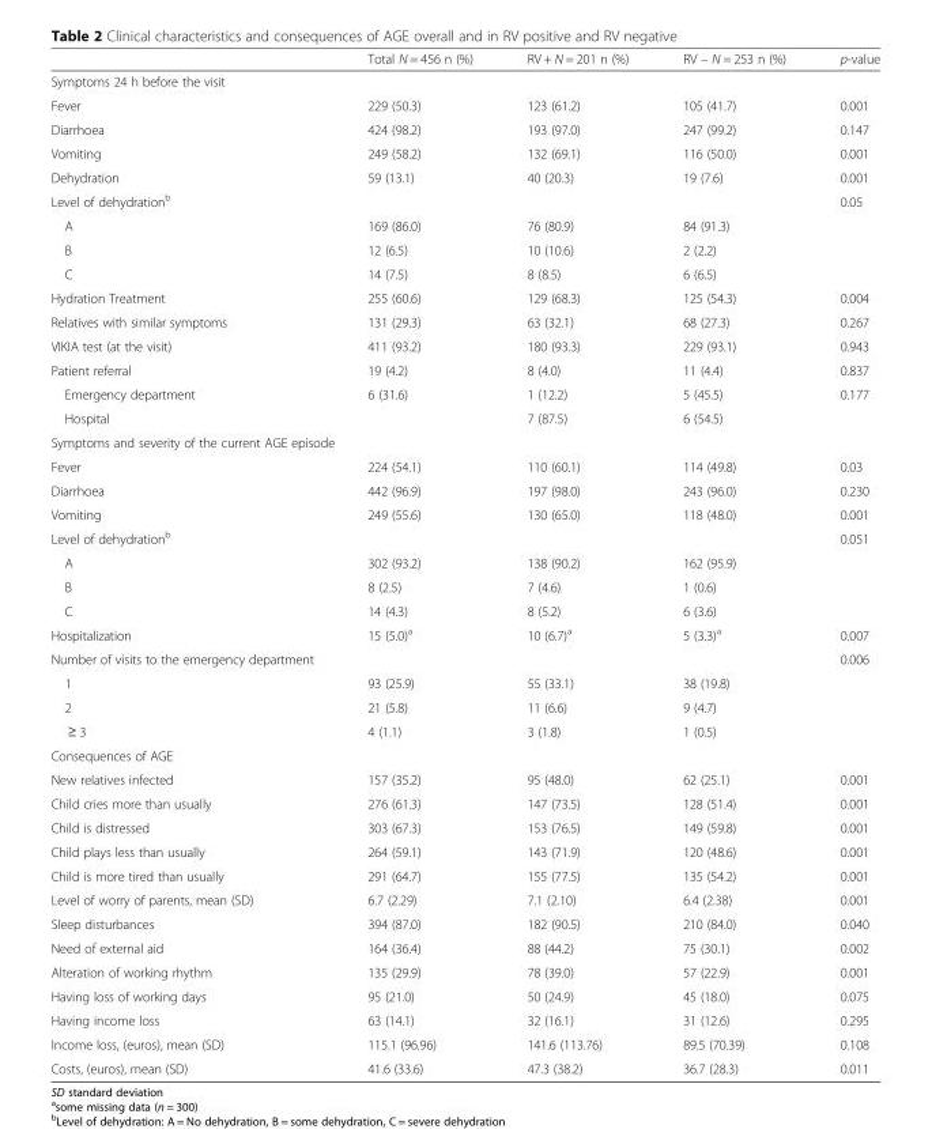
<table><thead><tr><td></td><td>Total N = 456 n (%)</td><td>RV + N = 201 n (%)</td><td>RV – N = 253 n (%)</td><td>p-value</td></tr></thead><tbody><tr><td colspan="5">Symptoms 24 h before the visit</td></tr><tr><td>Fever</td><td>229 (50.3)</td><td>123 (61.2)</td><td>105 (41.7)</td><td>0.001</td></tr><tr><td>Diarrhoea</td><td>424 (98.2)</td><td>193 (97.0)</td><td>247 (99.2)</td><td>0.147</td></tr><tr><td>Vomiting</td><td>249 (58.2)</td><td>132 (69.1)</td><td>116 (50.0)</td><td>0.001</td></tr><tr><td>Dehydration</td><td>59 (13.1)</td><td>40 (20.3)</td><td>19 (7.6)</td><td>0.001</td></tr><tr><td colspan="4">Level of dehydration<sup>b</sup></td><td rowspan="4">0.05</td></tr><tr><td>A</td><td>169 (86.0)</td><td>76 (80.9)</td><td>84 (91.3)</td></tr><tr><td>B</td><td>12 (6.5)</td><td>10 (10.6)</td><td>2 (2.2)</td></tr><tr><td>C</td><td>14 (7.5)</td><td>8 (8.5)</td><td>6 (6.5)</td></tr><tr><td>Hydration Treatment</td><td>255 (60.6)</td><td>129 (68.3)</td><td>125 (54.3)</td><td>0.004</td></tr><tr><td>Relatives with similar symptoms</td><td>131 (29.3)</td><td>63 (32.1)</td><td>68 (27.3)</td><td>0.267</td></tr><tr><td>VIKIA test (at the visit)</td><td>411 (93.2)</td><td>180 (93.3)</td><td>229 (93.1)</td><td>0.943</td></tr><tr><td>Patient referral</td><td>19 (4.2)</td><td>8 (4.0)</td><td>11 (4.4)</td><td>0.837</td></tr><tr><td>Emergency department</td><td rowspan="2">6 (31.6)</td><td>1 (12.2)</td><td>5 (45.5)</td><td rowspan="2">0.177</td></tr><tr><td>Hospital</td><td>7 (87.5)</td><td>6 (54.5)</td></tr><tr><td colspan="5">Symptoms and severity of the current AGE episode</td></tr><tr><td>Fever</td><td>224 (54.1)</td><td>110 (60.1)</td><td>114 (49.8)</td><td>0.03</td></tr><tr><td>Diarrhoea</td><td>442 (96.9)</td><td>197 (98.0)</td><td>243 (96.0)</td><td>0.230</td></tr><tr><td>Vomiting</td><td>249 (55.6)</td><td>130 (65.0)</td><td>118 (48.0)</td><td>0.001</td></tr><tr><td colspan="4">Level of dehydration<sup>b</sup></td><td rowspan="4">0.051</td></tr><tr><td>A</td><td>302 (93.2)</td><td>138 (90.2)</td><td>162 (95.9)</td></tr><tr><td>B</td><td>8 (2.5)</td><td>7 (4.6)</td><td>1 (0.6)</td></tr><tr><td>C</td><td>14 (4.3)</td><td>8 (5.2)</td><td>6 (3.6)</td></tr><tr><td>Hospitalization</td><td>15 (5.0)<sup>a</sup></td><td>10 (6.7)<sup>a</sup></td><td>5 (3.3)<sup>a</sup></td><td>0.007</td></tr><tr><td colspan="4">Number of visits to the emergency department</td><td rowspan="4">0.006</td></tr><tr><td>1</td><td>93 (25.9)</td><td>55 (33.1)</td><td>38 (19.8)</td></tr><tr><td>2</td><td>21 (5.8)</td><td>11 (6.6)</td><td>9 (4.7)</td></tr><tr><td>≥ 3</td><td>4 (1.1)</td><td>3 (1.8)</td><td>1 (0.5)</td></tr><tr><td colspan="5">Consequences of AGE</td></tr><tr><td>New relatives infected</td><td>157 (35.2)</td><td>95 (48.0)</td><td>62 (25.1)</td><td>0.001</td></tr><tr><td>Child cries more than usually</td><td>276 (61.3)</td><td>147 (73.5)</td><td>128 (51.4)</td><td>0.001</td></tr><tr><td>Child is distressed</td><td>303 (67.3)</td><td>153 (76.5)</td><td>149 (59.8)</td><td>0.001</td></tr><tr><td>Child plays less than usually</td><td>264 (59.1)</td><td>143 (71.9)</td><td>120 (48.6)</td><td>0.001</td></tr><tr><td>Child is more tired than usually</td><td>291 (64.7)</td><td>155 (77.5)</td><td>135 (54.2)</td><td>0.001</td></tr><tr><td>Level of worry of parents, mean (SD)</td><td>6.7 (2.29)</td><td>7.1 (2.10)</td><td>6.4 (2.38)</td><td>0.001</td></tr><tr><td>Sleep disturbances</td><td>394 (87.0)</td><td>182 (90.5)</td><td>210 (84.0)</td><td>0.040</td></tr><tr><td>Need of external aid</td><td>164 (36.4)</td><td>88 (44.2)</td><td>75 (30.1)</td><td>0.002</td></tr><tr><td>Alteration of working rhythm</td><td>135 (29.9)</td><td>78 (39.0)</td><td>57 (22.9)</td><td>0.001</td></tr><tr><td>Having loss of working days</td><td>95 (21.0)</td><td>50 (24.9)</td><td>45 (18.0)</td><td>0.075</td></tr><tr><td>Having income loss</td><td>63 (14.1)</td><td>32 (16.1)</td><td>31 (12.6)</td><td>0.295</td></tr><tr><td>Income loss, (euros), mean (SD)</td><td>115.1 (96.96)</td><td>141.6 (113.76)</td><td>89.5 (70.39)</td><td>0.108</td></tr><tr><td>Costs, (euros), mean (SD)</td><td>41.6 (33.6)</td><td>47.3 (38.2)</td><td>36.7 (28.3)</td><td>0.011</td></tr></tbody></table>